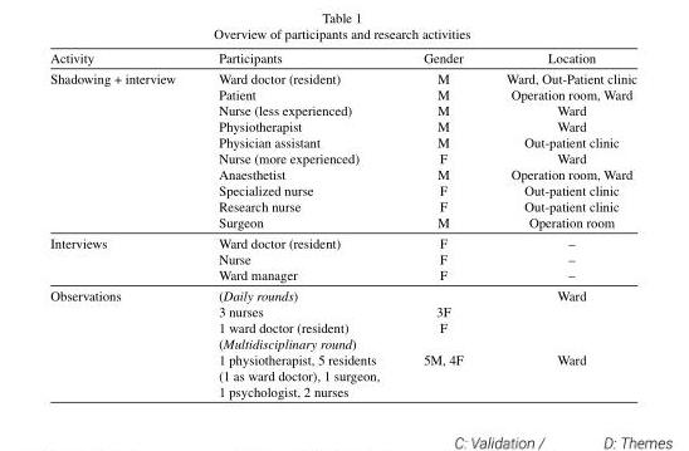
<table><thead><tr><td>Activity</td><td>Participants</td><td>Gender</td><td>Location</td></tr></thead><tbody><tr><td rowspan="10">Shadowing + interview</td><td>Ward doctor (resident)</td><td>M</td><td>Ward, Out-Patient clinic</td></tr><tr><td>Patient</td><td>M</td><td>Operation room, Ward</td></tr><tr><td>Nurse (less experienced)</td><td>M</td><td>Ward</td></tr><tr><td>Physiotherapist</td><td>M</td><td>Ward</td></tr><tr><td>Physician assistant</td><td>M</td><td>Out-patient clinic</td></tr><tr><td>Nurse (more experienced)</td><td>F</td><td>Ward</td></tr><tr><td>Anaesthetist</td><td>M</td><td>Operation room, Ward</td></tr><tr><td>Specialized nurse</td><td>F</td><td>Out-patient clinic</td></tr><tr><td>Research nurse</td><td>F</td><td>Out-patient clinic</td></tr><tr><td>Surgeon</td><td>M</td><td>Operation room</td></tr><tr><td rowspan="3">Interviews</td><td>Ward doctor (resident)</td><td>F</td><td>–</td></tr><tr><td>Nurse</td><td>F</td><td>–</td></tr><tr><td>Ward manager</td><td>F</td><td>–</td></tr><tr><td rowspan="4">Observations</td><td>(Daily rounds)</td><td></td><td>Ward</td></tr><tr><td>3 nurses</td><td>3F</td><td></td></tr><tr><td>1 ward doctor (resident) (Multidisciplinary round)</td><td>F</td><td></td></tr><tr><td>1 physiotherapist, 5 residents (1 as ward doctor), 1 surgeon, 1 psychologist, 2 nurses</td><td>5M, 4F</td><td>Ward</td></tr></tbody></table>